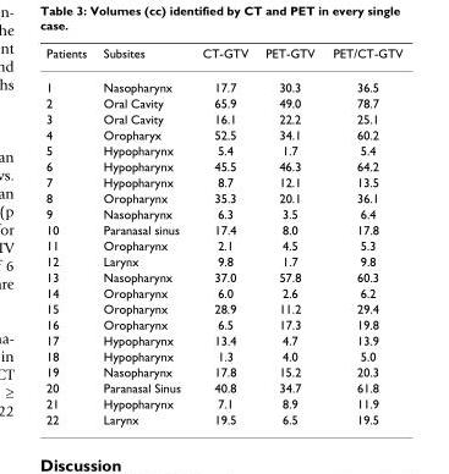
<table><thead><tr><td>Patients</td><td>Subsites</td><td>CT-GTV</td><td>PET-GTV</td><td>PET/CT-GTV</td></tr></thead><tbody><tr><td>1</td><td>Nasopharynx</td><td>17.7</td><td>30.3</td><td>36.5</td></tr><tr><td>2</td><td>Oral Cavity</td><td>65.9</td><td>49.0</td><td>78.7</td></tr><tr><td>3</td><td>Oral Cavity</td><td>16.1</td><td>22.2</td><td>25.1</td></tr><tr><td>4</td><td>Oropharyx</td><td>52.5</td><td>34.1</td><td>60.2</td></tr><tr><td>5</td><td>Hypopharynx</td><td>5.4</td><td>1.7</td><td>5.4</td></tr><tr><td>6</td><td>Hypopharynx</td><td>45.5</td><td>46.3</td><td>64.2</td></tr><tr><td>7</td><td>Hypopharynx</td><td>8.7</td><td>12.1</td><td>13.5</td></tr><tr><td>8</td><td>Oropharynx</td><td>35.3</td><td>20.1</td><td>36.1</td></tr><tr><td>9</td><td>Nasopharynx</td><td>6.3</td><td>3.5</td><td>6.4</td></tr><tr><td>10</td><td>Paranasal sinus</td><td>17.4</td><td>8.0</td><td>17.8</td></tr><tr><td>11</td><td>Oropharynx</td><td>2.1</td><td>4.5</td><td>5.3</td></tr><tr><td>12</td><td>Larynx</td><td>9.8</td><td>1.7</td><td>9.8</td></tr><tr><td>13</td><td>Nasopharynx</td><td>37.0</td><td>57.8</td><td>60.3</td></tr><tr><td>14</td><td>Oropharynx</td><td>6.0</td><td>2.6</td><td>6.2</td></tr><tr><td>15</td><td>Oropharynx</td><td>28.9</td><td>11.2</td><td>29.4</td></tr><tr><td>16</td><td>Oropharynx</td><td>6.5</td><td>17.3</td><td>19.8</td></tr><tr><td>17</td><td>Hypopharynx</td><td>13.4</td><td>4.7</td><td>13.9</td></tr><tr><td>18</td><td>Hypopharynx</td><td>1.3</td><td>4.0</td><td>5.0</td></tr><tr><td>19</td><td>Nasopharynx</td><td>17.8</td><td>15.2</td><td>20.3</td></tr><tr><td>20</td><td>Paranasal Sinus</td><td>40.8</td><td>34.7</td><td>61.8</td></tr><tr><td>21</td><td>Hypopharynx</td><td>7.1</td><td>8.9</td><td>11.9</td></tr><tr><td>22</td><td>Larynx</td><td>19.5</td><td>6.5</td><td>19.5</td></tr></tbody></table>